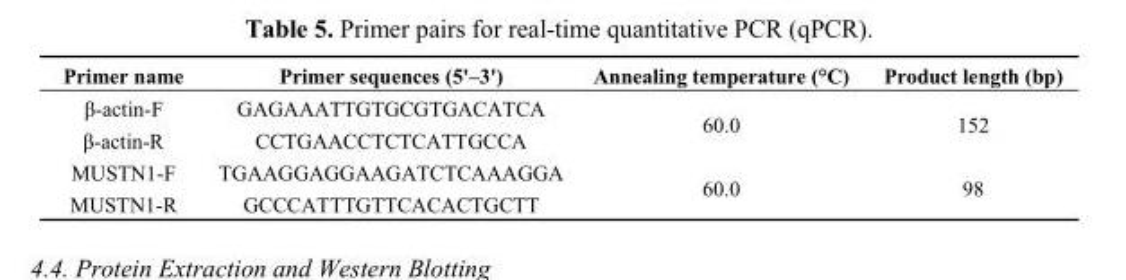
<table><thead><tr><td>Primer name</td><td>Primer sequences (5&#x27;–3&#x27;)</td><td>Annealing temperature (°C)</td><td>Product length (bp)</td></tr></thead><tbody><tr><td>β-actin-F</td><td>GAGAAATTGTGCGTGACATCA</td><td rowspan="2">60.0</td><td rowspan="2">152</td></tr><tr><td>β-actin-R</td><td>CCTGAACCTCTCATTGCCA</td></tr><tr><td>MUSTN1-F</td><td>TGAAGGAGGAAGATCTCAAAGGA</td><td rowspan="2">60.0</td><td rowspan="2">98</td></tr><tr><td>MUSTN1-R</td><td>GCCCATTTGTTCACACTGCTT</td></tr></tbody></table>